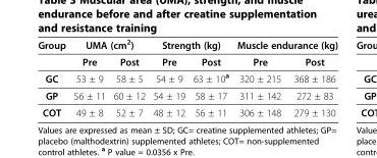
<table><thead><tr><td rowspan="2">Group</td><td colspan="2">UMA (cm<sup>2</sup>)</td><td colspan="2">Strength (kg)</td><td colspan="2">Muscle endurance (kg)</td></tr><tr><td>Pre</td><td>Post</td><td>Pre</td><td>Post</td><td>Pre</td><td>Post</td></tr></thead><tbody><tr><td>GC</td><td>53 ± 9</td><td>58 ± 5</td><td>54 ± 9</td><td>63 ± 10<sup>a</sup></td><td>320 ± 215</td><td>368 ± 186</td></tr><tr><td>GP</td><td>56 ± 11</td><td>60 ± 12</td><td>54 ± 19</td><td>58 ± 17</td><td>311 ± 142</td><td>272 ± 83</td></tr><tr><td>COT</td><td>49 ± 8</td><td>52 ± 7</td><td>48 ± 12</td><td>56 ± 11</td><td>306 ± 148</td><td>279 ± 130</td></tr></tbody></table>